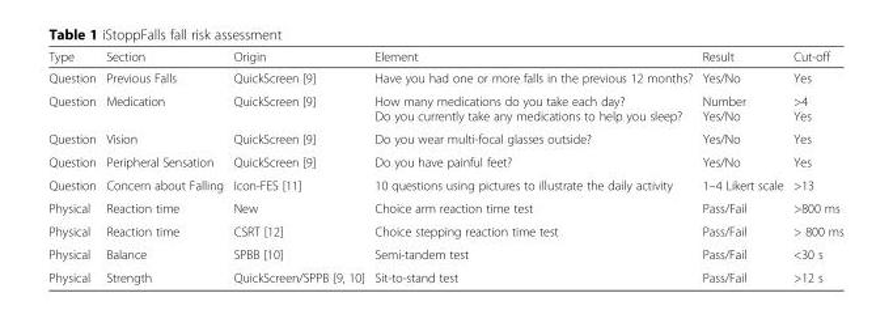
<table><thead><tr><td>Type</td><td>Section</td><td>Origin</td><td>Element</td><td>Result</td><td>Cut-off</td></tr></thead><tbody><tr><td>Question</td><td>Previous Falls</td><td>QuickScreen [9]</td><td>Have you had one or more falls in the previous 12 months?</td><td>Yes/No</td><td>Yes</td></tr><tr><td>Question</td><td>Medication</td><td>QuickScreen [9]</td><td>How many medications do you take each day? Do you currently take any medications to help you sleep?</td><td>Number Yes/No</td><td>&gt;4 Yes</td></tr><tr><td>Question</td><td>Vision</td><td>QuickScreen [9]</td><td>Do you wear multi-focal glasses outside?</td><td>Yes/No</td><td>Yes</td></tr><tr><td>Question</td><td>Peripheral Sensation</td><td>QuickScreen [9]</td><td>Do you have painful feet?</td><td>Yes/No</td><td>Yes</td></tr><tr><td>Question</td><td>Concern about Falling</td><td>Icon-FES [11]</td><td>10 questions using pictures to illustrate the daily activity</td><td>1–4 Likert scale</td><td>&gt;13</td></tr><tr><td>Physical</td><td>Reaction time</td><td>New</td><td>Choice arm reaction time test</td><td>Pass/Fail</td><td>&gt;800 ms</td></tr><tr><td>Physical</td><td>Reaction time</td><td>CSRT [12]</td><td>Choice stepping reaction time test</td><td>Pass/Fail</td><td>&gt; 800 ms</td></tr><tr><td>Physical</td><td>Balance</td><td>SPBB [10]</td><td>Semi-tandem test</td><td>Pass/Fail</td><td>&lt;30 s</td></tr><tr><td>Physical</td><td>Strength</td><td>QuickScreen/SPPB [9, 10]</td><td>Sit-to-stand test</td><td>Pass/Fail</td><td>&gt;12 s</td></tr></tbody></table>